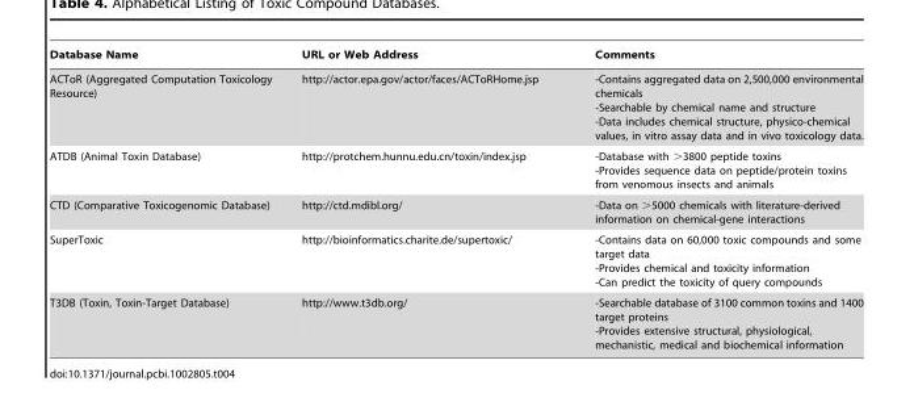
<table><thead><tr><td>Database Name</td><td>URL or Web Address</td><td>Comments</td></tr></thead><tbody><tr><td>ACToR (Aggregated Computation Toxicology Resource)</td><td>http://actor.epa.gov/actor/faces/ACToRHome.jsp</td><td>-Contains aggregated data on 2,500,000 environmental chemicals -Searchable by chemical name and structure -Data includes chemical structure, physico-chemical values, in vitro assay data and in vivo toxicology data.</td></tr><tr><td>ATDB (Animal Toxin Database)</td><td>http://protchem.hunnu.edu.cn/toxin/index.jsp</td><td>-Database with &gt;3800 peptide toxins -Provides sequence data on peptide/protein toxins from venomous insects and animals</td></tr><tr><td>CTD (Comparative Toxicogenomic Database)</td><td>http://ctd.mdibl.org/</td><td>-Data on &gt;5000 chemicals with literature-derived information on chemical-gene interactions</td></tr><tr><td>SuperToxic</td><td>http://bioinformatics.charite.de/supertoxic/</td><td>-Contains data on 60,000 toxic compounds and some target data -Provides chemical and toxicity information -Can predict the toxicity of query compounds</td></tr><tr><td>T3DB (Toxin, Toxin-Target Database)</td><td>http://www.t3db.org/</td><td>-Searchable database of 3100 common toxins and 1400 target proteins -Provides extensive structural, physiological, mechanistic, medical and biochemical information</td></tr></tbody></table>